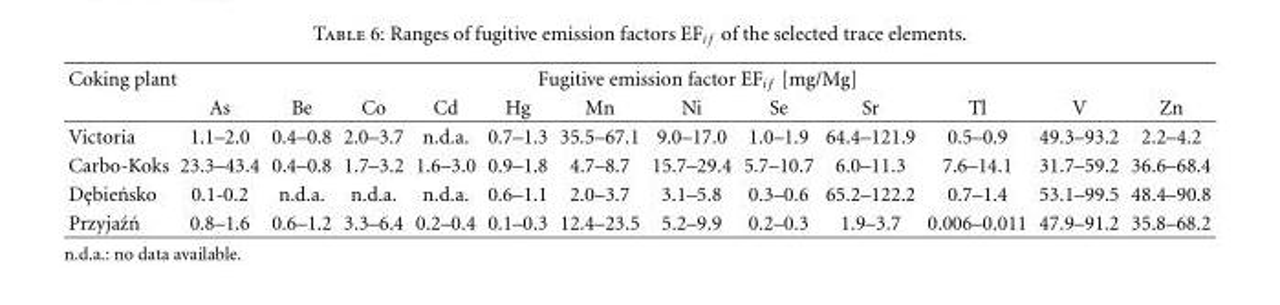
<table><thead><tr><td rowspan="2">Coking plant</td><td colspan="12">Fugitive emission factor EF<sub>i f</sub> [mg/Mg]</td></tr><tr><td>As</td><td>Be</td><td>Co</td><td>Cd</td><td>Hg</td><td>Mn</td><td>Ni</td><td>Se</td><td>Sr</td><td>Tl</td><td>V</td><td>Zn</td></tr></thead><tbody><tr><td>Victoria</td><td>1.1–2.0</td><td>0.4–0.8</td><td>2.0–3.7</td><td>n.d.a.</td><td>0.7–1.3</td><td>35.5–67.1</td><td>9.0–17.0</td><td>1.0–1.9</td><td>64.4–121.9</td><td>0.5–0.9</td><td>49.3–93.2</td><td>2.2–4.2</td></tr><tr><td>Carbo-Koks</td><td>23.3–43.4</td><td>0.4–0.8</td><td>1.7–3.2</td><td>1.6–3.0</td><td>0.9–1.8</td><td>4.7–8.7</td><td>15.7–29.4</td><td>5.7–10.7</td><td>6.0–11.3</td><td>7.6–14.1</td><td>31.7–59.2</td><td>36.6–68.4</td></tr><tr><td>De¸bie´nsko</td><td>0.1-0.2</td><td>n.d.a.</td><td>n.d.a.</td><td>n.d.a.</td><td>0.6–1.1</td><td>2.0–3.7</td><td>3.1–5.8</td><td>0.3–0.6</td><td>65.2–122.2</td><td>0.7–1.4</td><td>53.1–99.5</td><td>48.4–90.8</td></tr><tr><td>Przyja´z´n</td><td>0.8–1.6</td><td>0.6–1.2</td><td>3.3–6.4</td><td>0.2–0.4</td><td>0.1–0.3</td><td>12.4–23.5</td><td>5.2–9.9</td><td>0.2–0.3</td><td>1.9–3.7</td><td>0.006–0.011</td><td>47.9–91.2</td><td>35.8–68.2</td></tr></tbody></table>